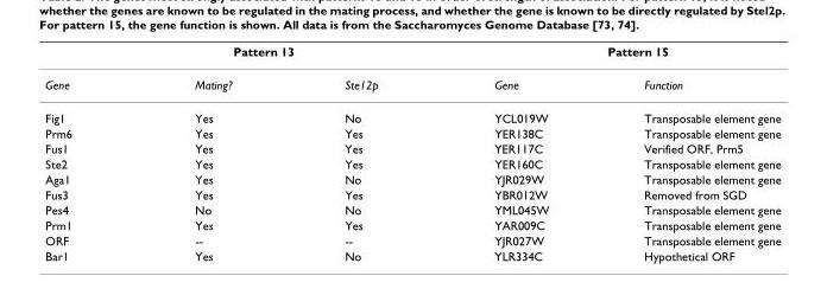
<table><thead><tr><td colspan="3">Pattern 13</td><td colspan="2">Pattern 15</td></tr><tr><td>Gene</td><td>Mating?</td><td>Ste12p</td><td>Gene</td><td>Function</td></tr></thead><tbody><tr><td>Fig1</td><td>Yes</td><td>No</td><td>YCL019W</td><td>Transposable element gene</td></tr><tr><td>Prm6</td><td>Yes</td><td>Yes</td><td>YER138C</td><td>Transposable element gene</td></tr><tr><td>Fus1</td><td>Yes</td><td>Yes</td><td>YER117C</td><td>Verified ORF, Prm5</td></tr><tr><td>Ste2</td><td>Yes</td><td>Yes</td><td>YER160C</td><td>Transposable element gene</td></tr><tr><td>Aga1</td><td>Yes</td><td>No</td><td>YJR029W</td><td>Transposable element gene</td></tr><tr><td>Fus3</td><td>Yes</td><td>Yes</td><td>YBR012W</td><td>Removed from SGD</td></tr><tr><td>Pes4</td><td>No</td><td>No</td><td>YML045W</td><td>Transposable element gene</td></tr><tr><td>Prm1</td><td>Yes</td><td>Yes</td><td>YAR009C</td><td>Transposable element gene</td></tr><tr><td>ORF</td><td>--</td><td>--</td><td>YJR027W</td><td>Transposable element gene</td></tr><tr><td>Bar1</td><td>Yes</td><td>No</td><td>YLR334C</td><td>Hypothetical ORF</td></tr></tbody></table>